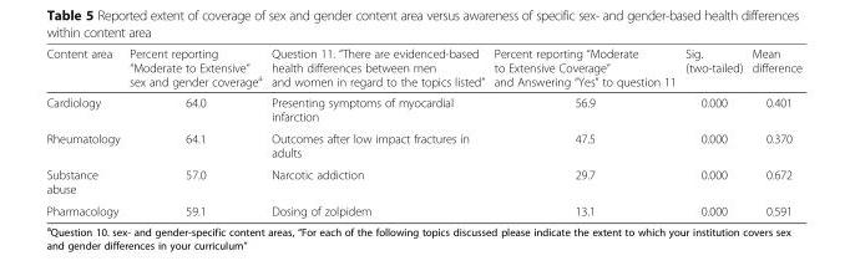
<table><thead><tr><td>Content area</td><td>Percent reporting “Moderate to Extensive” sex and gender coverage<sup>a</sup></td><td>Question 11. “There are evidenced-based health differences between men and women in regard to the topics listed”</td><td>Percent reporting “Moderate to Extensive Coverage” and Answering “Yes” to question 11</td><td>Sig. (two-tailed)</td><td>Mean difference</td></tr></thead><tbody><tr><td>Cardiology</td><td>64.0</td><td>Presenting symptoms of myocardial infarction</td><td>56.9</td><td>0.000</td><td>0.401</td></tr><tr><td>Rheumatology</td><td>64.1</td><td>Outcomes after low impact fractures in adults</td><td>47.5</td><td>0.000</td><td>0.370</td></tr><tr><td>Substance abuse</td><td>57.0</td><td>Narcotic addiction</td><td>29.7</td><td>0.000</td><td>0.672</td></tr><tr><td>Pharmacology</td><td>59.1</td><td>Dosing of zolpidem</td><td>13.1</td><td>0.000</td><td>0.591</td></tr></tbody></table>